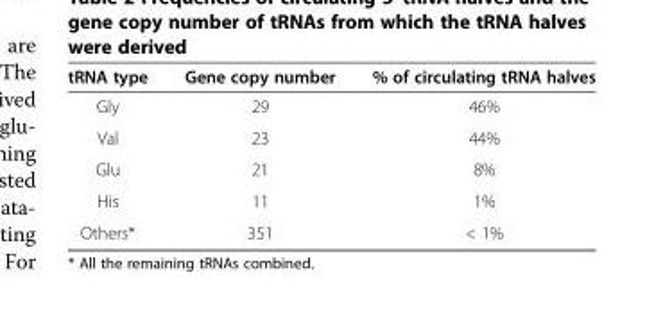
<table><thead><tr><td>tRNA type</td><td>Gene copy number</td><td>% of circulating tRNA halves</td></tr></thead><tbody><tr><td>Gly</td><td>29</td><td>46%</td></tr><tr><td>Val</td><td>23</td><td>44%</td></tr><tr><td>Glu</td><td>21</td><td>8%</td></tr><tr><td>His</td><td>11</td><td>1%</td></tr><tr><td>Others*</td><td>351</td><td>&lt; 1%</td></tr></tbody></table>